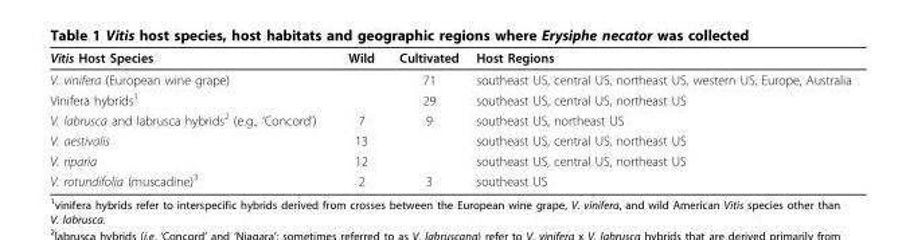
<table><thead><tr><td>Vitis Host Species</td><td>Wild</td><td>Cultivated</td><td>Host Regions</td></tr></thead><tbody><tr><td>V. vinifera (European wine grape)</td><td></td><td>71</td><td>southeast US, central US, northeast US, western US, Europe, Australia</td></tr><tr><td>Vinifera hybrids<sup>1</sup></td><td></td><td>29</td><td>southeast US, central US, northeast US</td></tr><tr><td>V. labrusca and labrusca hybrids<sup>2</sup> (e.g., ‘Concord’)</td><td>7</td><td>9</td><td>southeast US, northeast US</td></tr><tr><td>V. aestivalis</td><td>13</td><td></td><td>southeast US, central US, northeast US</td></tr><tr><td>V. riparia</td><td>12</td><td></td><td>southeast US, central US, northeast US</td></tr><tr><td>V. rotundifolia (muscadine)<sup>3</sup></td><td>2</td><td>3</td><td>southeast US</td></tr></tbody></table>